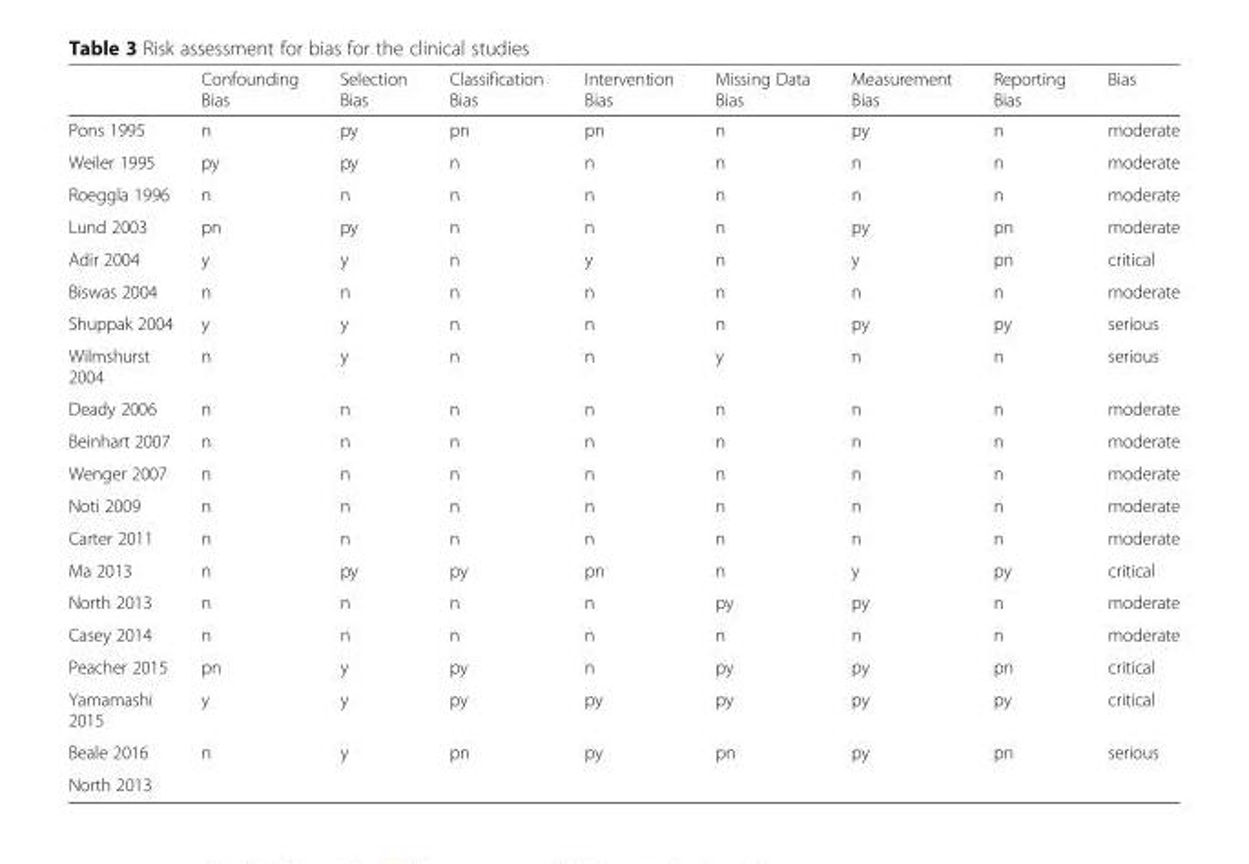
<table><thead><tr><td></td><td>Confounding Bias</td><td>Selection Bias</td><td>Classification Bias</td><td>Intervention Bias</td><td>Missing Data Bias</td><td>Measurement Bias</td><td>Reporting Bias</td><td>Bias</td></tr></thead><tbody><tr><td>Pons 1995</td><td>n</td><td>py</td><td>pn</td><td>pn</td><td>n</td><td>py</td><td>n</td><td>moderate</td></tr><tr><td>Weiler 1995</td><td>py</td><td>py</td><td>n</td><td>n</td><td>n</td><td>n</td><td>n</td><td>moderate</td></tr><tr><td>Roeggla 1996</td><td>n</td><td>n</td><td>n</td><td>n</td><td>n</td><td>n</td><td>n</td><td>moderate</td></tr><tr><td>Lund 2003</td><td>pn</td><td>py</td><td>n</td><td>n</td><td>n</td><td>py</td><td>pn</td><td>moderate</td></tr><tr><td>Adir 2004</td><td>y</td><td>y</td><td>n</td><td>y</td><td>n</td><td>y</td><td>pn</td><td>critical</td></tr><tr><td>Biswas 2004</td><td>n</td><td>n</td><td>n</td><td>n</td><td>n</td><td>n</td><td>n</td><td>moderate</td></tr><tr><td>Shuppak 2004</td><td>y</td><td>y</td><td>n</td><td>n</td><td>n</td><td>py</td><td>py</td><td>serious</td></tr><tr><td>Wilmshurst 2004</td><td>n</td><td>y</td><td>n</td><td>n</td><td>y</td><td>n</td><td>n</td><td>serious</td></tr><tr><td>Deady 2006</td><td>n</td><td>n</td><td>n</td><td>n</td><td>n</td><td>n</td><td>n</td><td>moderate</td></tr><tr><td>Beinhart 2007</td><td>n</td><td>n</td><td>n</td><td>n</td><td>n</td><td>n</td><td>n</td><td>moderate</td></tr><tr><td>Wenger 2007</td><td>n</td><td>n</td><td>n</td><td>n</td><td>n</td><td>n</td><td>n</td><td>moderate</td></tr><tr><td>Noti 2009</td><td>n</td><td>n</td><td>n</td><td>n</td><td>n</td><td>n</td><td>n</td><td>moderate</td></tr><tr><td>Carter 2011</td><td>n</td><td>n</td><td>n</td><td>n</td><td>n</td><td>n</td><td>n</td><td>moderate</td></tr><tr><td>Ma 2013</td><td>n</td><td>py</td><td>py</td><td>pn</td><td>n</td><td>y</td><td>py</td><td>critical</td></tr><tr><td>North 2013</td><td>n</td><td>n</td><td>n</td><td>n</td><td>py</td><td>py</td><td>n</td><td>moderate</td></tr><tr><td>Casey 2014</td><td>n</td><td>n</td><td>n</td><td>n</td><td>n</td><td>n</td><td>n</td><td>moderate</td></tr><tr><td>Peacher 2015</td><td>pn</td><td>y</td><td>py</td><td>n</td><td>py</td><td>py</td><td>pn</td><td>critical</td></tr><tr><td>Yamamashi 2015</td><td>y</td><td>y</td><td>py</td><td>py</td><td>py</td><td>py</td><td>py</td><td>critical</td></tr><tr><td>Beale 2016</td><td>n</td><td>y</td><td>pn</td><td>py</td><td>pn</td><td>py</td><td>pn</td><td>serious</td></tr><tr><td>North 2013</td><td></td><td></td><td></td><td></td><td></td><td></td><td></td><td></td></tr></tbody></table>